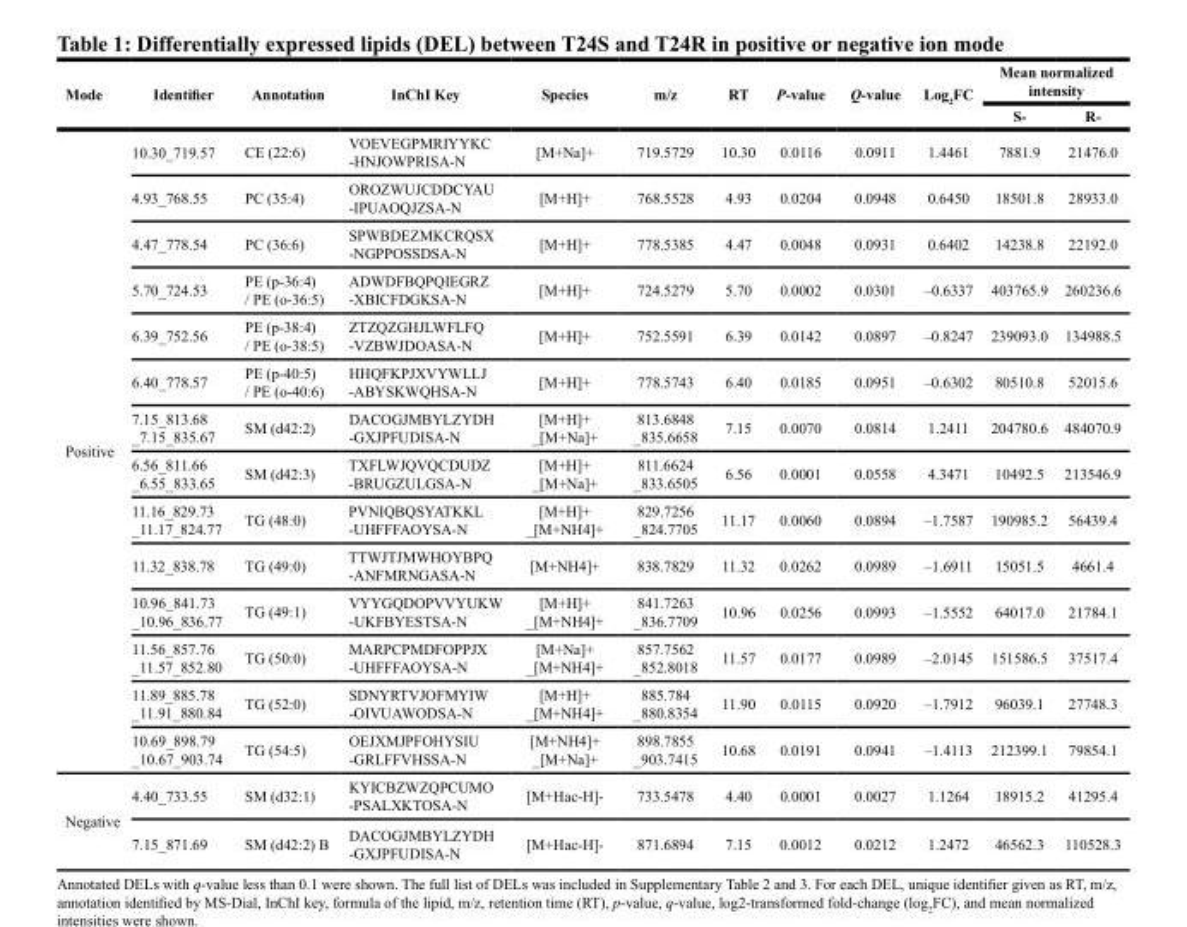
<table><thead><tr><td rowspan="2">Mode</td><td rowspan="2">Identifi er</td><td rowspan="2">Annotation</td><td rowspan="2">InChI Key</td><td rowspan="2">Species</td><td rowspan="2">m/z</td><td rowspan="2">RT</td><td rowspan="2">P-value</td><td rowspan="2">Q-value</td><td rowspan="2">Log<sub>2</sub>FC</td><td colspan="2">Mean normalized intensity</td></tr><tr><td>S-</td><td>R-</td></tr></thead><tbody><tr><td rowspan="14">Positive</td><td>10.30_719.57</td><td>CE (22:6)</td><td>VOEVEGPMRIYYKC -HNJOWPRISA-N</td><td>[M+Na]+</td><td>719.5729</td><td>10.30</td><td>0.0116</td><td>0.0911</td><td>1.4461</td><td>7881.9</td><td>21476.0</td></tr><tr><td>4.93_768.55</td><td>PC (35:4)</td><td>OROZWUJCDDCYAU -IPUAOQJZSA-N</td><td>[M+H]+</td><td>768.5528</td><td>4.93</td><td>0.0204</td><td>0.0948</td><td>0.6450</td><td>18501.8</td><td>28933.0</td></tr><tr><td>4.47_778.54</td><td>PC (36:6)</td><td>SPWBDEZMKCRQSX -NGPPOSSDSA-N</td><td>[M+H]+</td><td>778.5385</td><td>4.47</td><td>0.0048</td><td>0.0931</td><td>0.6402</td><td>14238.8</td><td>22192.0</td></tr><tr><td>5.70_724.53</td><td>PE (p-36:4) / PE (o-36:5)</td><td>ADWDFBQPQIEGRZ -XBICFDGKSA-N</td><td>[M+H]+</td><td>724.5279</td><td>5.70</td><td>0.0002</td><td>0.0301</td><td>–0.6337</td><td>403765.9</td><td>260236.6</td></tr><tr><td>6.39_752.56</td><td>PE (p-38:4) / PE (o-38:5)</td><td>ZTZQZGHJLWFLFQ -VZBWJDOASA-N</td><td>[M+H]+</td><td>752.5591</td><td>6.39</td><td>0.0142</td><td>0.0897</td><td>–0.8247</td><td>239093.0</td><td>134988.5</td></tr><tr><td>6.40_778.57</td><td>PE (p-40:5) / PE (o-40:6)</td><td>HHQFKPJXVYWLLJ -ABYSKWQHSA-N</td><td>[M+H]+</td><td>778.5743</td><td>6.40</td><td>0.0185</td><td>0.0951</td><td>–0.6302</td><td>80510.8</td><td>52015.6</td></tr><tr><td>7.15_813.68 _7.15_835.67</td><td>SM (d42:2)</td><td>DACOGJMBYLZYDH -GXJPFUDISA-N</td><td>[M+H]+ _[M+Na]+</td><td>813.6848 _835.6658</td><td>7.15</td><td>0.0070</td><td>0.0814</td><td>1.2411</td><td>204780.6</td><td>484070.9</td></tr><tr><td>6.56_811.66 _6.55_833.65</td><td>SM (d42:3)</td><td>TXFLWJQVQCDUDZ -BRUGZULGSA-N</td><td>[M+H]+ _[M+Na]+</td><td>811.6624 _833.6505</td><td>6.56</td><td>0.0001</td><td>0.0558</td><td>4.3471</td><td>10492.5</td><td>213546.9</td></tr><tr><td>11.16_829.73 _11.17_824.77</td><td>TG (48:0)</td><td>PVNIQBQSYATKKL -UHFFFAOYSA-N</td><td>[M+H]+ _[M+NH4]+</td><td>829.7256 _824.7705</td><td>11.17</td><td>0.0060</td><td>0.0894</td><td>–1.7587</td><td>190985.2</td><td>56439.4</td></tr><tr><td>11.32_838.78</td><td>TG (49:0)</td><td>TTWJTJMWHOYBPQ -ANFMRNGASA-N</td><td>[M+NH4]+</td><td>838.7829</td><td>11.32</td><td>0.0262</td><td>0.0989</td><td>–1.6911</td><td>15051.5</td><td>4661.4</td></tr><tr><td>10.96_841.73 _10.96_836.77</td><td>TG (49:1)</td><td>VYYGQDOPVVYUKW -UKFBYESTSA-N</td><td>[M+H]+ _[M+NH4]+</td><td>841.7263 _836.7709</td><td>10.96</td><td>0.0256</td><td>0.0993</td><td>–1.5552</td><td>64017.0</td><td>21784.1</td></tr><tr><td>11.56_857.76 _11.57_852.80</td><td>TG (50:0)</td><td>MARPCPMDFOPPJX -UHFFFAOYSA-N</td><td>[M+Na]+ _[M+NH4]+</td><td>857.7562 _852.8018</td><td>11.57</td><td>0.0177</td><td>0.0989</td><td>–2.0145</td><td>151586.5</td><td>37517.4</td></tr><tr><td>11.89_885.78 _11.91_880.84</td><td>TG (52:0)</td><td>SDNYRTVJOFMYIW -OIVUAWODSA-N</td><td>[M+H]+ _[M+NH4]+</td><td>885.784 _880.8354</td><td>11.90</td><td>0.0115</td><td>0.0920</td><td>–1.7912</td><td>96039.1</td><td>27748.3</td></tr><tr><td>10.69_898.79 _10.67_903.74</td><td>TG (54:5)</td><td>OEJXMJPFOHYSIU -GRLFFVHSSA-N</td><td>[M+NH4]+ _[M+Na]+</td><td>898.7855 _903.7415</td><td>10.68</td><td>0.0191</td><td>0.0941</td><td>–1.4113</td><td>212399.1</td><td>79854.1</td></tr><tr><td rowspan="2">Negative</td><td>4.40_733.55</td><td>SM (d32:1)</td><td>KYICBZWZQPCUMO -PSALXKTOSA-N</td><td>[M+Hac-H]-</td><td>733.5478</td><td>4.40</td><td>0.0001</td><td>0.0027</td><td>1.1264</td><td>18915.2</td><td>41295.4</td></tr><tr><td>7.15_871.69</td><td>SM (d42:2) B</td><td>DACOGJMBYLZYDH -GXJPFUDISA-N</td><td>[M+Hac-H]-</td><td>871.6894</td><td>7.15</td><td>0.0012</td><td>0.0212</td><td>1.2472</td><td>46562.3</td><td>110528.3</td></tr></tbody></table>